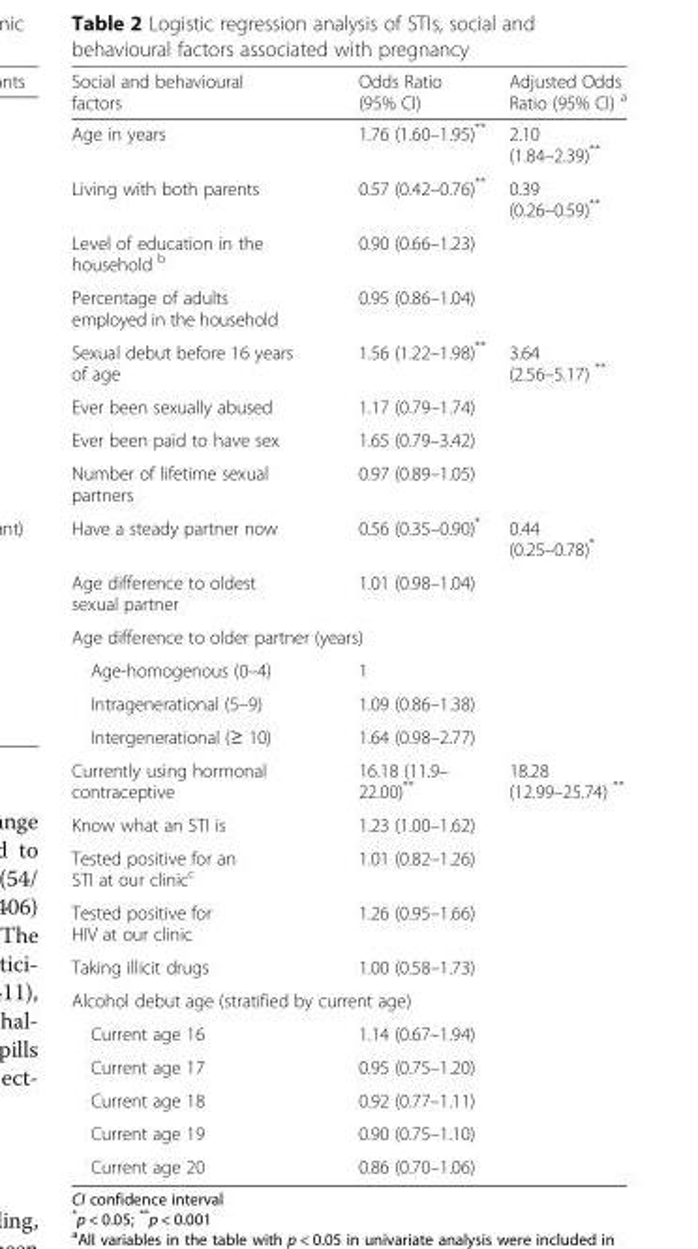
<table><thead><tr><td>Social and behavioural factors</td><td>Odds Ratio (95% CI)</td><td>Adjusted Odds Ratio (95% CI) <sup>a</sup></td></tr></thead><tbody><tr><td>Age in years</td><td>1.76 (1.60–1.95)**</td><td>2.10 (1.84–2.39)**</td></tr><tr><td>Living with both parents</td><td>0.57 (0.42–0.76)**</td><td>0.39 (0.26–0.59)**</td></tr><tr><td>Level of education in the household <sup>b</sup></td><td>0.90 (0.66–1.23)</td><td></td></tr><tr><td>Percentage of adults employed in the household</td><td>0.95 (0.86–1.04)</td><td></td></tr><tr><td>Sexual debut before 16 years of age</td><td>1.56 (1.22–1.98)**</td><td>3.64 (2.56–5.17) **</td></tr><tr><td>Ever been sexually abused</td><td>1.17 (0.79–1.74)</td><td></td></tr><tr><td>Ever been paid to have sex</td><td>1.65 (0.79–3.42)</td><td></td></tr><tr><td>Number of lifetime sexual partners</td><td>0.97 (0.89–1.05)</td><td></td></tr><tr><td>Have a steady partner now</td><td>0.56 (0.35–0.90)*</td><td>0.44 (0.25–0.78)*</td></tr><tr><td>Age difference to oldest sexual partner</td><td>1.01 (0.98–1.04)</td><td></td></tr><tr><td colspan="3">Age difference to older partner (years)</td></tr><tr><td>Age-homogenous (0–4)</td><td>1</td><td></td></tr><tr><td>Intragenerational (5–9)</td><td>1.09 (0.86–1.38)</td><td></td></tr><tr><td>Intergenerational (≥ 10)</td><td>1.64 (0.98–2.77)</td><td></td></tr><tr><td>Currently using hormonal contraceptive</td><td>16.18 (11.9– 22.00)**</td><td>18.28 (12.99–25.74) **</td></tr><tr><td>Know what an STI is</td><td>1.23 (1.00–1.62)</td><td></td></tr><tr><td>Tested positive for an STI at our clinic<sup>c</sup></td><td>1.01 (0.82–1.26)</td><td></td></tr><tr><td>Tested positive for HIV at our clinic</td><td>1.26 (0.95–1.66)</td><td></td></tr><tr><td>Taking illicit drugs</td><td>1.00 (0.58–1.73)</td><td></td></tr><tr><td colspan="3">Alcohol debut age (stratified by current age)</td></tr><tr><td>Current age 16</td><td>1.14 (0.67–1.94)</td><td></td></tr><tr><td>Current age 17</td><td>0.95 (0.75–1.20)</td><td></td></tr><tr><td>Current age 18</td><td>0.92 (0.77–1.11)</td><td></td></tr><tr><td>Current age 19</td><td>0.90 (0.75–1.10)</td><td></td></tr><tr><td>Current age 20</td><td>0.86 (0.70–1.06)</td><td></td></tr></tbody></table>